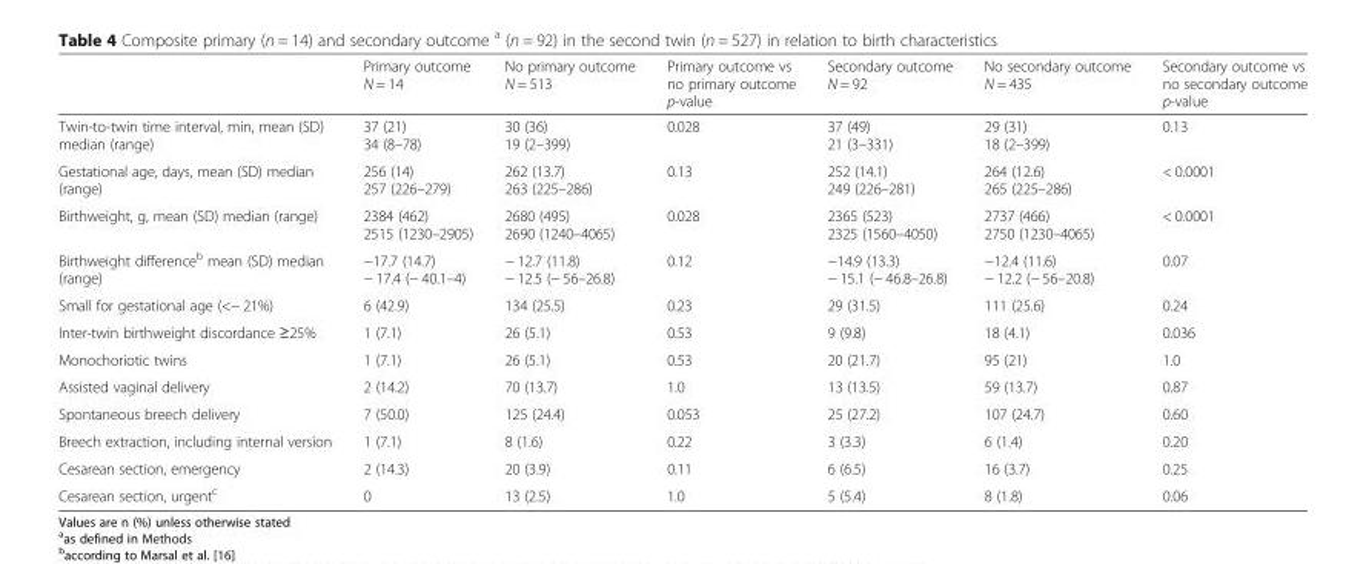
<table><thead><tr><td></td><td>Primary outcome N = 14</td><td>No primary outcome N = 513</td><td>Primary outcome vs no primary outcome p-value</td><td>Secondary outcome N = 92</td><td>No secondary outcome N = 435</td><td>Secondary outcome vs no secondary outcome p-value</td></tr></thead><tbody><tr><td>Twin-to-twin time interval, min, mean (SD) median (range)</td><td>37 (21) 34 (8–78)</td><td>30 (36) 19 (2–399)</td><td>0.028</td><td>37 (49) 21 (3–331)</td><td>29 (31) 18 (2–399)</td><td>0.13</td></tr><tr><td>Gestational age, days, mean (SD) median (range)</td><td>256 (14) 257 (226–279)</td><td>262 (13.7) 263 (225–286)</td><td>0.13</td><td>252 (14.1) 249 (226–281)</td><td>264 (12.6) 265 (225–286)</td><td>&lt; 0.0001</td></tr><tr><td>Birthweight, g, mean (SD) median (range)</td><td>2384 (462) 2515 (1230–2905)</td><td>2680 (495) 2690 (1240–4065)</td><td>0.028</td><td>2365 (523) 2325 (1560–4050)</td><td>2737 (466) 2750 (1230–4065)</td><td>&lt; 0.0001</td></tr><tr><td>Birthweight difference<sup>b</sup> mean (SD) median (range)</td><td>−17.7 (14.7) − 17.4 (− 40.1–4)</td><td>− 12.7 (11.8) − 12.5 (− 56–26.8)</td><td>0.12</td><td>−14.9 (13.3) − 15.1 (− 46.8–26.8)</td><td>−12.4 (11.6) − 12.2 (− 56–20.8)</td><td>0.07</td></tr><tr><td>Small for gestational age (&lt;− 21%)</td><td>6 (42.9)</td><td>134 (25.5)</td><td>0.23</td><td>29 (31.5)</td><td>111 (25.6)</td><td>0.24</td></tr><tr><td>Inter-twin birthweight discordance ≥25%</td><td>1 (7.1)</td><td>26 (5.1)</td><td>0.53</td><td>9 (9.8)</td><td>18 (4.1)</td><td>0.036</td></tr><tr><td>Monochoriotic twins</td><td>1 (7.1)</td><td>26 (5.1)</td><td>0.53</td><td>20 (21.7)</td><td>95 (21)</td><td>1.0</td></tr><tr><td>Assisted vaginal delivery</td><td>2 (14.2)</td><td>70 (13.7)</td><td>1.0</td><td>13 (13.5)</td><td>59 (13.7)</td><td>0.87</td></tr><tr><td>Spontaneous breech delivery</td><td>7 (50.0)</td><td>125 (24.4)</td><td>0.053</td><td>25 (27.2)</td><td>107 (24.7)</td><td>0.60</td></tr><tr><td>Breech extraction, including internal version</td><td>1 (7.1)</td><td>8 (1.6)</td><td>0.22</td><td>3 (3.3)</td><td>6 (1.4)</td><td>0.20</td></tr><tr><td>Cesarean section, emergency</td><td>2 (14.3)</td><td>20 (3.9)</td><td>0.11</td><td>6 (6.5)</td><td>16 (3.7)</td><td>0.25</td></tr><tr><td>Cesarean section, urgent<sup>c</sup></td><td>0</td><td>13 (2.5)</td><td>1.0</td><td>5 (5.4)</td><td>8 (1.8)</td><td>0.06</td></tr></tbody></table>